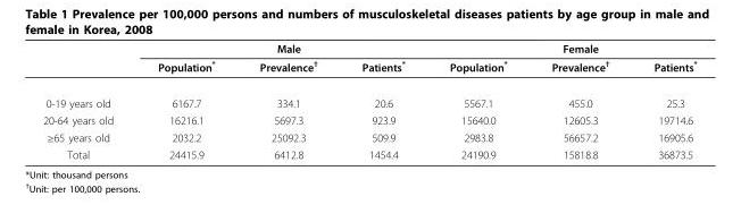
<table><thead><tr><td rowspan="2"></td><td rowspan="2">Population*</td><td rowspan="2">Male Prevalence<sup>†</sup></td><td rowspan="2">Patients*</td><td rowspan="2">Population*</td><td rowspan="2">Female Prevalence<sup>†</sup></td><td rowspan="2">Patients*</td></tr><tr></tr></thead><tbody><tr><td>0-19 years old</td><td>6167.7</td><td>334.1</td><td>20.6</td><td>5567.1</td><td>455.0</td><td>25.3</td></tr><tr><td>20-64 years old</td><td>16216.1</td><td>5697.3</td><td>923.9</td><td>15640.0</td><td>12605.3</td><td>19714.6</td></tr><tr><td>≥65 years old</td><td>2032.2</td><td>25092.3</td><td>509.9</td><td>2983.8</td><td>56657.2</td><td>16905.6</td></tr><tr><td>Total</td><td>24415.9</td><td>6412.8</td><td>1454.4</td><td>24190.9</td><td>15818.8</td><td>36873.5</td></tr></tbody></table>